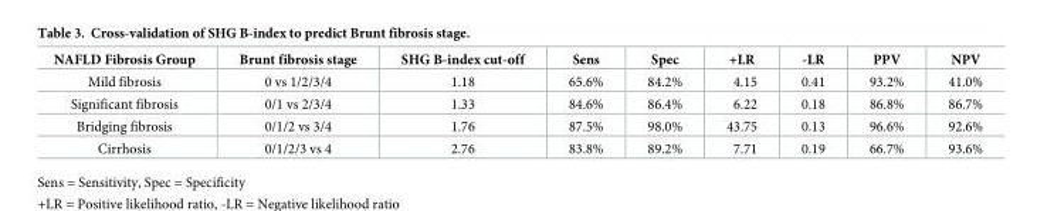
<table><thead><tr><td>NAFLD Fibrosis Group</td><td>Brunt fibrosis stage</td><td>SHG B-index cut-off</td><td>Sens</td><td>Spec</td><td>+LR</td><td>-LR</td><td>PPV</td><td>NPV</td></tr></thead><tbody><tr><td>Mild fibrosis</td><td>0 vs 1/2/3/4</td><td>1.18</td><td>65.6%</td><td>84.2%</td><td>4.15</td><td>0.41</td><td>93.2%</td><td>41.0%</td></tr><tr><td>Significant fibrosis</td><td>0/1 vs 2/3/4</td><td>1.33</td><td>84.6%</td><td>86.4%</td><td>6.22</td><td>0.18</td><td>86.8%</td><td>86.7%</td></tr><tr><td>Bridging fibrosis</td><td>0/1/2 vs 3/4</td><td>1.76</td><td>87.5%</td><td>98.0%</td><td>43.75</td><td>0.13</td><td>96.6%</td><td>92.6%</td></tr><tr><td>Cirrhosis</td><td>0/1/2/3 vs 4</td><td>2.76</td><td>83.8%</td><td>89.2%</td><td>7.71</td><td>0.19</td><td>66.7%</td><td>93.6%</td></tr></tbody></table>